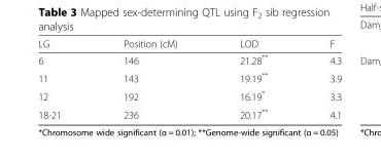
<table><thead><tr><td>LG</td><td>Position (cM)</td><td>LOD</td><td>F</td></tr></thead><tbody><tr><td>6</td><td>146</td><td>21.28**</td><td>4.3</td></tr><tr><td>11</td><td>143</td><td>19.19**</td><td>3.9</td></tr><tr><td>12</td><td>192</td><td>16.19*</td><td>3.3</td></tr><tr><td>18-21</td><td>236</td><td>20.17**</td><td>4.1</td></tr></tbody></table>